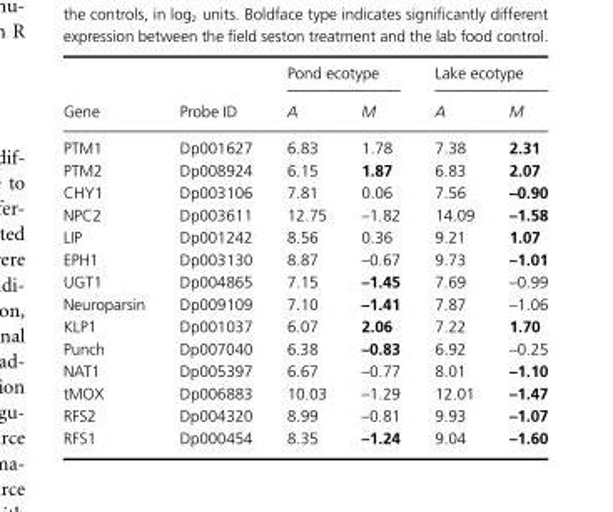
<table><thead><tr><td rowspan="2">Gene</td><td rowspan="2">Probe ID</td><td colspan="2">Pond ecotype</td><td colspan="2">Lake ecotype</td></tr><tr><td>A</td><td>M</td><td>A</td><td>M</td></tr></thead><tbody><tr><td>PTM1</td><td>Dp001627</td><td>6.83</td><td>1.78</td><td>7.38</td><td>2.31</td></tr><tr><td>PTM2</td><td>Dp008924</td><td>6.15</td><td>1.87</td><td>6.83</td><td>2.07</td></tr><tr><td>CHY1</td><td>Dp003106</td><td>7.81</td><td>0.06</td><td>7.56</td><td>–0.90</td></tr><tr><td>NPC2</td><td>Dp003611</td><td>12.75</td><td>–1.82</td><td>14.09</td><td>–1.58</td></tr><tr><td>LIP</td><td>Dp001242</td><td>8.56</td><td>0.36</td><td>9.21</td><td>1.07</td></tr><tr><td>EPH1</td><td>Dp003130</td><td>8.87</td><td>–0.67</td><td>9.73</td><td>–1.01</td></tr><tr><td>UGT1</td><td>Dp004865</td><td>7.15</td><td>–1.45</td><td>7.69</td><td>–0.99</td></tr><tr><td>Neuroparsin</td><td>Dp009109</td><td>7.10</td><td>–1.41</td><td>7.87</td><td>–1.06</td></tr><tr><td>KLP1</td><td>Dp001037</td><td>6.07</td><td>2.06</td><td>7.22</td><td>1.70</td></tr><tr><td>Punch</td><td>Dp007040</td><td>6.38</td><td>–0.83</td><td>6.92</td><td>–0.25</td></tr><tr><td>NAT1</td><td>Dp005397</td><td>6.67</td><td>–0.77</td><td>8.01</td><td>–1.10</td></tr><tr><td>tMOX</td><td>Dp006883</td><td>10.03</td><td>–1.29</td><td>12.01</td><td>–1.47</td></tr><tr><td>RFS2</td><td>Dp004320</td><td>8.99</td><td>–0.81</td><td>9.93</td><td>–1.07</td></tr><tr><td>RFS1</td><td>Dp000454</td><td>8.35</td><td>–1.24</td><td>9.04</td><td>–1.60</td></tr></tbody></table>